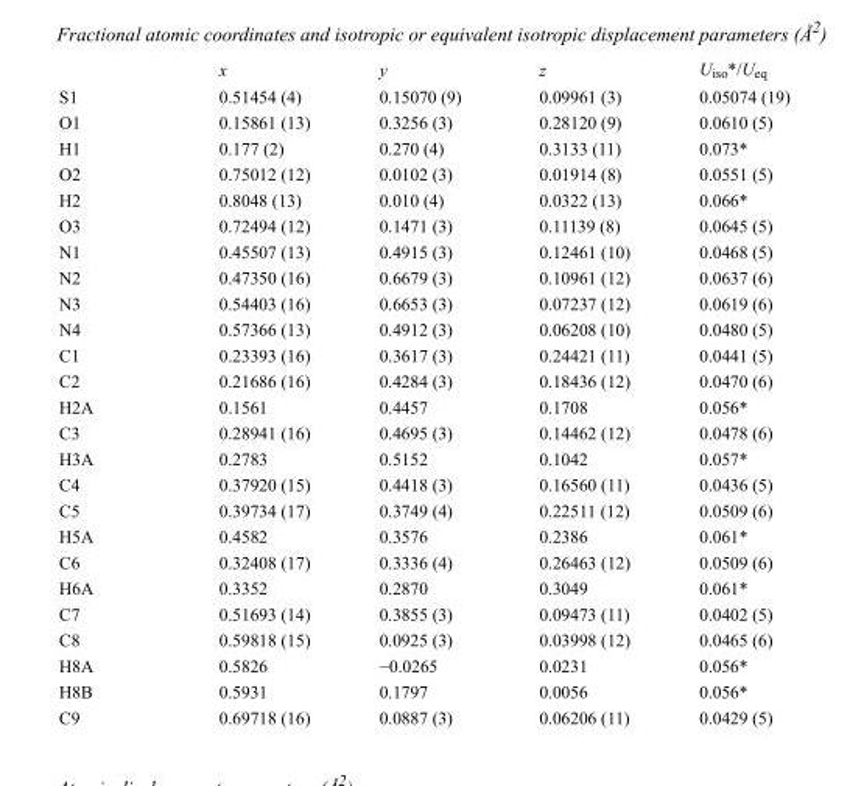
<table><thead><tr><td></td><td>x</td><td>y</td><td>z</td><td>U<sub>iso</sub>*/U<sub>eq</sub></td></tr></thead><tbody><tr><td>S1</td><td>0.51454 (4)</td><td>0.15070 (9)</td><td>0.09961 (3)</td><td>0.05074 (19)</td></tr><tr><td>O1</td><td>0.15861 (13)</td><td>0.3256 (3)</td><td>0.28120 (9)</td><td>0.0610 (5)</td></tr><tr><td>H1</td><td>0.177 (2)</td><td>0.270 (4)</td><td>0.3133 (11)</td><td>0.073*</td></tr><tr><td>O2</td><td>0.75012 (12)</td><td>0.0102 (3)</td><td>0.01914 (8)</td><td>0.0551 (5)</td></tr><tr><td>H2</td><td>0.8048 (13)</td><td>0.010 (4)</td><td>0.0322 (13)</td><td>0.066*</td></tr><tr><td>O3</td><td>0.72494 (12)</td><td>0.1471 (3)</td><td>0.11139 (8)</td><td>0.0645 (5)</td></tr><tr><td>N1</td><td>0.45507 (13)</td><td>0.4915 (3)</td><td>0.12461 (10)</td><td>0.0468 (5)</td></tr><tr><td>N2</td><td>0.47350 (16)</td><td>0.6679 (3)</td><td>0.10961 (12)</td><td>0.0637 (6)</td></tr><tr><td>N3</td><td>0.54403 (16)</td><td>0.6653 (3)</td><td>0.07237 (12)</td><td>0.0619 (6)</td></tr><tr><td>N4</td><td>0.57366 (13)</td><td>0.4912 (3)</td><td>0.06208 (10)</td><td>0.0480 (5)</td></tr><tr><td>C1</td><td>0.23393 (16)</td><td>0.3617 (3)</td><td>0.24421 (11)</td><td>0.0441 (5)</td></tr><tr><td>C2</td><td>0.21686 (16)</td><td>0.4284 (3)</td><td>0.18436 (12)</td><td>0.0470 (6)</td></tr><tr><td>H2A</td><td>0.1561</td><td>0.4457</td><td>0.1708</td><td>0.056*</td></tr><tr><td>C3</td><td>0.28941 (16)</td><td>0.4695 (3)</td><td>0.14462 (12)</td><td>0.0478 (6)</td></tr><tr><td>H3A</td><td>0.2783</td><td>0.5152</td><td>0.1042</td><td>0.057*</td></tr><tr><td>C4</td><td>0.37920 (15)</td><td>0.4418 (3)</td><td>0.16560 (11)</td><td>0.0436 (5)</td></tr><tr><td>C5</td><td>0.39734 (17)</td><td>0.3749 (4)</td><td>0.22511 (12)</td><td>0.0509 (6)</td></tr><tr><td>H5A</td><td>0.4582</td><td>0.3576</td><td>0.2386</td><td>0.061*</td></tr><tr><td>C6</td><td>0.32408 (17)</td><td>0.3336 (4)</td><td>0.26463 (12)</td><td>0.0509 (6)</td></tr><tr><td>H6A</td><td>0.3352</td><td>0.2870</td><td>0.3049</td><td>0.061*</td></tr><tr><td>C7</td><td>0.51693 (14)</td><td>0.3855 (3)</td><td>0.09473 (11)</td><td>0.0402 (5)</td></tr><tr><td>C8</td><td>0.59818 (15)</td><td>0.0925 (3)</td><td>0.03998 (12)</td><td>0.0465 (6)</td></tr><tr><td>H8A</td><td>0.5826</td><td>−0.0265</td><td>0.0231</td><td>0.056*</td></tr><tr><td>H8B</td><td>0.5931</td><td>0.1797</td><td>0.0056</td><td>0.056*</td></tr><tr><td>C9</td><td>0.69718 (16)</td><td>0.0887 (3)</td><td>0.06206 (11)</td><td>0.0429 (5)</td></tr></tbody></table>